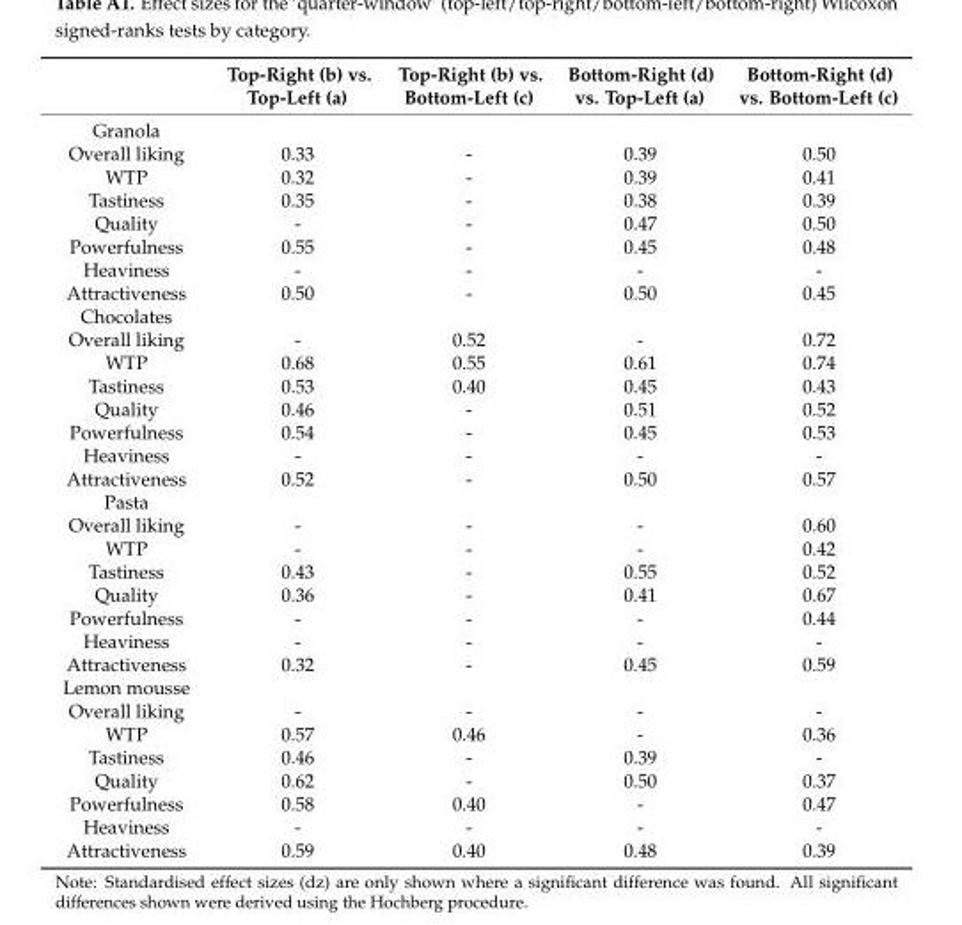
<table><thead><tr><td></td><td>Top-Right (b) vs. Top-Left (a)</td><td>Top-Right (b) vs. Bottom-Left (c)</td><td>Bottom-Right (d) vs. Top-Left (a)</td><td>Bottom-Right (d) vs. Bottom-Left (c)</td></tr></thead><tbody><tr><td colspan="5">Granola</td></tr><tr><td>Overall liking</td><td>0.33</td><td>-</td><td>0.39</td><td>0.50</td></tr><tr><td>WTP</td><td>0.32</td><td>-</td><td>0.39</td><td>0.41</td></tr><tr><td>Tastiness</td><td>0.35</td><td>-</td><td>0.38</td><td>0.39</td></tr><tr><td>Quality</td><td>-</td><td>-</td><td>0.47</td><td>0.50</td></tr><tr><td>Powerfulness</td><td>0.55</td><td>-</td><td>0.45</td><td>0.48</td></tr><tr><td>Heaviness</td><td>-</td><td>-</td><td>-</td><td>-</td></tr><tr><td>Attractiveness</td><td>0.50</td><td>-</td><td>0.50</td><td>0.45</td></tr><tr><td colspan="5">Chocolates</td></tr><tr><td>Overall liking</td><td>-</td><td>0.52</td><td>-</td><td>0.72</td></tr><tr><td>WTP</td><td>0.68</td><td>0.55</td><td>0.61</td><td>0.74</td></tr><tr><td>Tastiness</td><td>0.53</td><td>0.40</td><td>0.45</td><td>0.43</td></tr><tr><td>Quality</td><td>0.46</td><td>-</td><td>0.51</td><td>0.52</td></tr><tr><td>Powerfulness</td><td>0.54</td><td>-</td><td>0.45</td><td>0.53</td></tr><tr><td>Heaviness</td><td>-</td><td>-</td><td>-</td><td>-</td></tr><tr><td>Attractiveness</td><td>0.52</td><td>-</td><td>0.50</td><td>0.57</td></tr><tr><td colspan="5">Pasta</td></tr><tr><td>Overall liking</td><td>-</td><td>-</td><td>-</td><td>0.60</td></tr><tr><td>WTP</td><td>-</td><td>-</td><td>-</td><td>0.42</td></tr><tr><td>Tastiness</td><td>0.43</td><td>-</td><td>0.55</td><td>0.52</td></tr><tr><td>Quality</td><td>0.36</td><td>-</td><td>0.41</td><td>0.67</td></tr><tr><td>Powerfulness</td><td>-</td><td>-</td><td>-</td><td>0.44</td></tr><tr><td>Heaviness</td><td>-</td><td>-</td><td>-</td><td>-</td></tr><tr><td>Attractiveness</td><td>0.32</td><td>-</td><td>0.45</td><td>0.59</td></tr><tr><td colspan="5">Lemon mousse</td></tr><tr><td>Overall liking</td><td>-</td><td>-</td><td>-</td><td>-</td></tr><tr><td>WTP</td><td>0.57</td><td>0.46</td><td>-</td><td>0.36</td></tr><tr><td>Tastiness</td><td>0.46</td><td>-</td><td>0.39</td><td>-</td></tr><tr><td>Quality</td><td>0.62</td><td>-</td><td>0.50</td><td>0.37</td></tr><tr><td>Powerfulness</td><td>0.58</td><td>0.40</td><td>-</td><td>0.47</td></tr><tr><td>Heaviness</td><td>-</td><td>-</td><td>-</td><td>-</td></tr><tr><td>Attractiveness</td><td>0.59</td><td>0.40</td><td>0.48</td><td>0.39</td></tr></tbody></table>